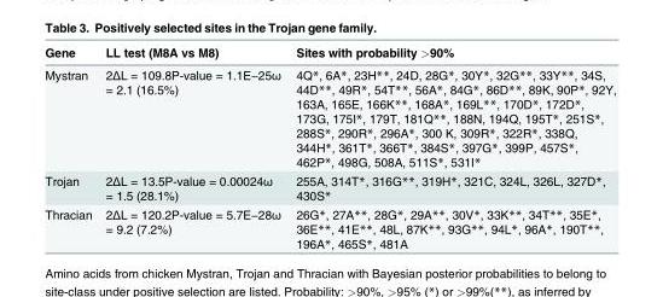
<table><thead><tr><td>Gene</td><td>LL test (M8A vs M8)</td><td>Sites with probability &gt;90%</td></tr></thead><tbody><tr><td>Mystran</td><td>2ΔL = 109.8P-value = 1.1E−25ω = 2.1 (16.5%)</td><td>4Q*, 6A*, 23H**, 24D, 28G*, 30Y*, 32G**, 33Y**, 34S, 44D**, 49R*, 54T**, 56A*, 84G*, 86D**, 89K, 90P*, 92Y, 163A, 165E, 166K**, 168A*, 169L**, 170D*, 172D*, 173G, 175I*, 179T, 181Q**, 188N, 194Q, 195T*, 251S*, 288S*, 290R*, 296A*, 300 K, 309R*, 322R*, 338Q, 344H*, 361T*, 366T*, 384S*, 397G*, 399P, 457S*, 462P*, 498G, 508A, 511S*, 531I*</td></tr><tr><td>Trojan</td><td>2ΔL = 13.5P-value = 0.00024ω = 1.5 (28.1%)</td><td>255A, 314T*, 316G**, 319H*, 321C, 324L, 326L, 327D*, 430S*</td></tr><tr><td>Thracian</td><td>2ΔL = 120.2P-value = 5.7E−28ω = 9.2 (7.2%)</td><td>26G*, 27A**, 28G*, 29A**, 30V*, 33K**, 34T**, 35E*, 36E**, 41E**, 48L, 87K**, 93G**, 94L*, 96A*, 190T**, 196A*, 465S*, 481A</td></tr></tbody></table>